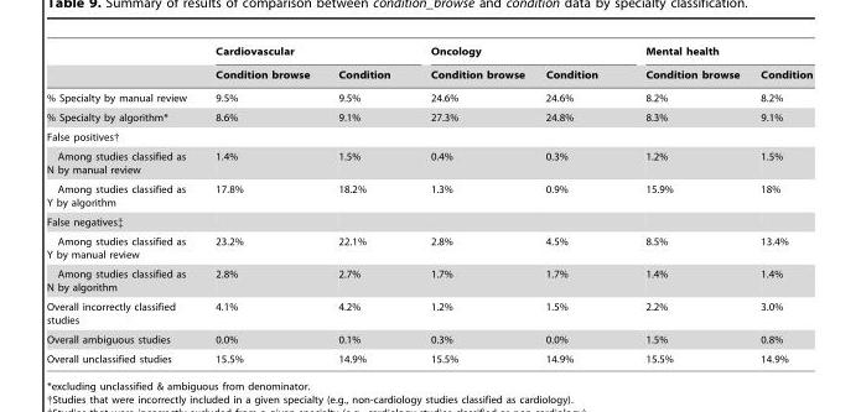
<table><thead><tr><td rowspan="2"></td><td colspan="2">Cardiovascular</td><td colspan="2">Oncology</td><td colspan="2">Mental health</td></tr><tr><td>Condition browse</td><td>Condition</td><td>Condition browse</td><td>Condition</td><td>Condition browse</td><td>Condition</td></tr></thead><tbody><tr><td>% Specialty by manual review</td><td>9.5%</td><td>9.5%</td><td>24.6%</td><td>24.6%</td><td>8.2%</td><td>8.2%</td></tr><tr><td>% Specialty by algorithm*</td><td>8.6%</td><td>9.1%</td><td>27.3%</td><td>24.8%</td><td>8.3%</td><td>9.1%</td></tr><tr><td colspan="7">False positives†</td></tr><tr><td>Among studies classified as N by manual review</td><td>1.4%</td><td>1.5%</td><td>0.4%</td><td>0.3%</td><td>1.2%</td><td>1.5%</td></tr><tr><td>Among studies classified as Y by algorithm</td><td>17.8%</td><td>18.2%</td><td>1.3%</td><td>0.9%</td><td>15.9%</td><td>18%</td></tr><tr><td colspan="7">False negatives‡</td></tr><tr><td>Among studies classified as Y by manual review</td><td>23.2%</td><td>22.1%</td><td>2.8%</td><td>4.5%</td><td>8.5%</td><td>13.4%</td></tr><tr><td>Among studies classified as N by algorithm</td><td>2.8%</td><td>2.7%</td><td>1.7%</td><td>1.7%</td><td>1.4%</td><td>1.4%</td></tr><tr><td>Overall incorrectly classified studies</td><td>4.1%</td><td>4.2%</td><td>1.2%</td><td>1.5%</td><td>2.2%</td><td>3.0%</td></tr><tr><td>Overall ambiguous studies</td><td>0.0%</td><td>0.1%</td><td>0.3%</td><td>0.0%</td><td>1.5%</td><td>0.8%</td></tr><tr><td>Overall unclassified studies</td><td>15.5%</td><td>14.9%</td><td>15.5%</td><td>14.9%</td><td>15.5%</td><td>14.9%</td></tr></tbody></table>